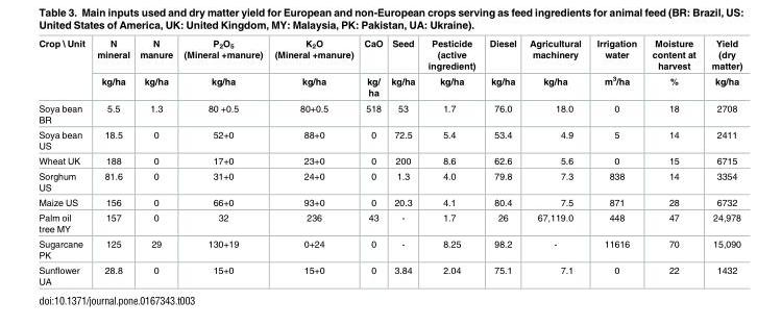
<table><thead><tr><td rowspan="2">Crop \ Unit</td><td rowspan="2">N mineral kg/ha</td><td rowspan="2">N manure kg/ha</td><td rowspan="2">P<sub>2</sub>O<sub>5</sub> (Mineral +manure) kg/ha</td><td rowspan="2">K<sub>2</sub>O (Mineral +manure) kg/ha</td><td rowspan="2">CaO kg/ ha</td><td rowspan="2">Seed kg/ha</td><td rowspan="2">Pesticide (active ingredient) kg/ha</td><td rowspan="2">Diesel kg/ha</td><td rowspan="2">Agricultural machinery kg/ha</td><td rowspan="2">Irrigation water m<sup>3</sup>/ha</td><td rowspan="2">Moisture content at harvest %</td><td rowspan="2">Yield (dry matter) kg/ha</td></tr><tr></tr></thead><tbody><tr><td>Soya bean BR</td><td>5.5</td><td>1.3</td><td>80 +0.5</td><td>80+0.5</td><td>518</td><td>53</td><td>1.7</td><td>76.0</td><td>18.0</td><td>0</td><td>18</td><td>2708</td></tr><tr><td>Soya bean US</td><td>18.5</td><td>0</td><td>52+0</td><td>88+0</td><td>0</td><td>72.5</td><td>5.4</td><td>53.4</td><td>4.9</td><td>5</td><td>14</td><td>2411</td></tr><tr><td>Wheat UK</td><td>188</td><td>0</td><td>17+0</td><td>23+0</td><td>0</td><td>200</td><td>8.6</td><td>62.6</td><td>5.6</td><td>0</td><td>15</td><td>6715</td></tr><tr><td>Sorghum US</td><td>81.6</td><td>0</td><td>31+0</td><td>24+0</td><td>0</td><td>1.3</td><td>4.0</td><td>79.8</td><td>7.3</td><td>838</td><td>14</td><td>3354</td></tr><tr><td>Maize US</td><td>156</td><td>0</td><td>66+0</td><td>93+0</td><td>0</td><td>20.3</td><td>4.1</td><td>80.4</td><td>7.5</td><td>871</td><td>28</td><td>6732</td></tr><tr><td>Palm oil tree MY</td><td>157</td><td>0</td><td>32</td><td>236</td><td>43</td><td>-</td><td>1.7</td><td>26</td><td>67,119.0</td><td>448</td><td>47</td><td>24,978</td></tr><tr><td>Sugarcane PK</td><td>125</td><td>29</td><td>130+19</td><td>0+24</td><td>0</td><td>-</td><td>8.25</td><td>98.2</td><td>-</td><td>11616</td><td>70</td><td>15,090</td></tr><tr><td>Sunflower UA</td><td>28.8</td><td>0</td><td>15+0</td><td>15+0</td><td>0</td><td>3.84</td><td>2.04</td><td>75.1</td><td>7.1</td><td>0</td><td>22</td><td>1432</td></tr></tbody></table>